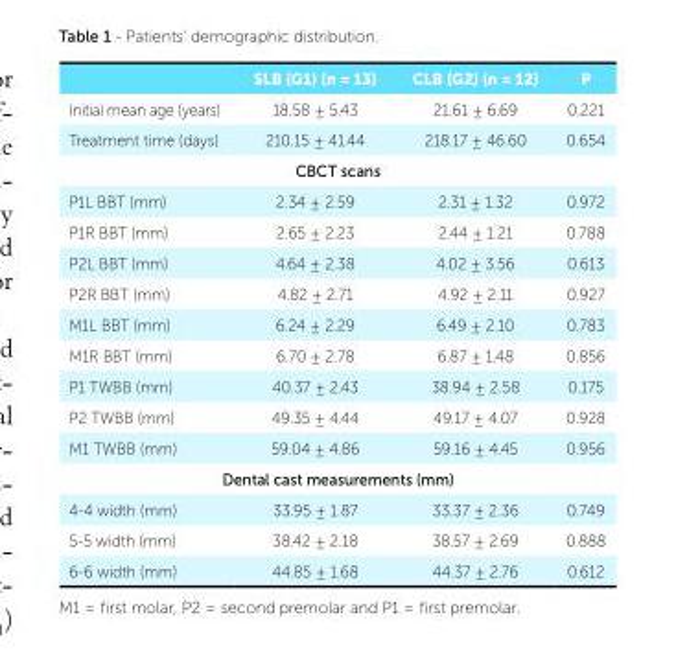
<table><thead><tr><td></td><td>SLB (G1) (n = 13)</td><td>CLB (G2) (n = 12)</td><td>P</td></tr></thead><tbody><tr><td>Initial mean age (years)</td><td>18.58 ± 5.43</td><td>21.61 ± 6.69</td><td>0.221</td></tr><tr><td>Treatment time (days)</td><td>210.15 ± 41.44</td><td>218.17 ± 46.60</td><td>0.654</td></tr><tr><td colspan="4">CBCT scans</td></tr><tr><td>P1L BBT (mm)</td><td>2.34 ± 2.59</td><td>2.31 ± 1.32</td><td>0.972</td></tr><tr><td>P1R BBT (mm)</td><td>2.65 ± 2.23</td><td>2.44 ± 1.21</td><td>0.788</td></tr><tr><td>P2L BBT (mm)</td><td>4.64 ± 2.38</td><td>4.02 ± 3.56</td><td>0.613</td></tr><tr><td>P2R BBT (mm)</td><td>4.82 ± 2.71</td><td>4.92 ± 2.11</td><td>0.927</td></tr><tr><td>M1L BBT (mm)</td><td>6.24 ± 2.29</td><td>6.49 ± 2.10</td><td>0.783</td></tr><tr><td>M1R BBT (mm)</td><td>6.70 ± 2.78</td><td>6.87 ± 1.48</td><td>0.856</td></tr><tr><td>P1 TWBB (mm)</td><td>40.37 ± 2.43</td><td>38.94 ± 2.58</td><td>0.175</td></tr><tr><td>P2 TWBB (mm)</td><td>49.35 ± 4.44</td><td>49.17 ± 4.07</td><td>0.928</td></tr><tr><td>M1 TWBB (mm)</td><td>59.04 ± 4.86</td><td>59.16 ± 4.45</td><td>0.956</td></tr><tr><td colspan="4">Dental cast measurements (mm)</td></tr><tr><td>4-4 width (mm)</td><td>33.95 ± 1.87</td><td>33.37 ± 2.36</td><td>0.749</td></tr><tr><td>5-5 width (mm)</td><td>38.42 ± 2.18</td><td>38.57 ± 2.69</td><td>0.888</td></tr><tr><td>6-6 width (mm)</td><td>44.85 ± 1.68</td><td>44.37 ± 2.76</td><td>0.612</td></tr></tbody></table>